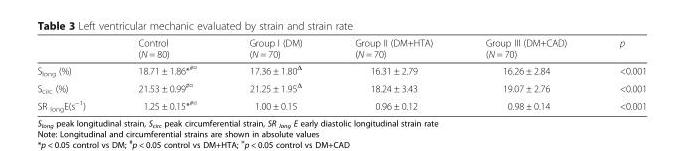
<table><thead><tr><td></td><td>Control (N = 80)</td><td>Group I (DM) (N = 70)</td><td>Group II (DM+HTA) (N = 70)</td><td>Group III (DM+CAD) (N = 70)</td><td>p</td></tr></thead><tbody><tr><td>S<sub>long</sub> (%)</td><td>18.71 ± 1.86*<sup>#¤</sup></td><td>17.36 ± 1.80<sup>Δ</sup></td><td>16.31 ± 2.79</td><td>16.26 ± 2.84</td><td>&lt;0.001</td></tr><tr><td>S<sub>circ</sub> (%)</td><td>21.53 ± 0.99<sup>#¤</sup></td><td>21.25 ± 1.95<sup>Δ</sup></td><td>18.24 ± 3.43</td><td>19.07 ± 2.76</td><td>&lt;0.001</td></tr><tr><td>SR <sub>long</sub>E(s<sup>−1</sup>)</td><td>1.25 ± 0.15*<sup>#¤</sup></td><td>1.00 ± 0.15</td><td>0.96 ± 0.12</td><td>0.98 ± 0.14</td><td>&lt;0.001</td></tr></tbody></table>